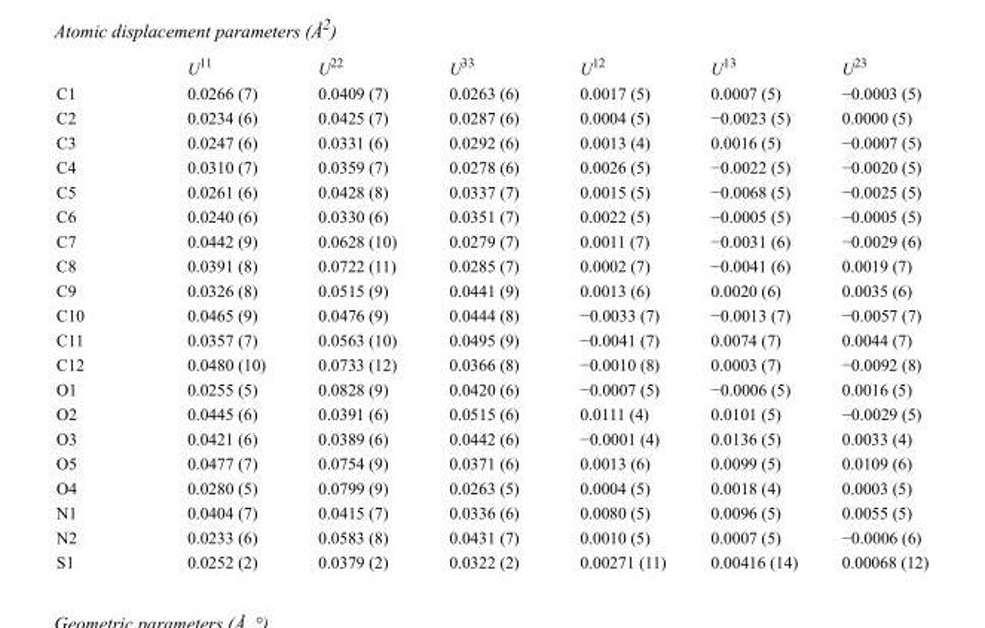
<table><thead><tr><td></td><td>U<sup>11</sup></td><td>U<sup>22</sup></td><td>U<sup>33</sup></td><td>U<sup>12</sup></td><td>U<sup>13</sup></td><td>U<sup>23</sup></td></tr></thead><tbody><tr><td>C1</td><td>0.0266 (7)</td><td>0.0409 (7)</td><td>0.0263 (6)</td><td>0.0017 (5)</td><td>0.0007 (5)</td><td>−0.0003 (5)</td></tr><tr><td>C2</td><td>0.0234 (6)</td><td>0.0425 (7)</td><td>0.0287 (6)</td><td>0.0004 (5)</td><td>−0.0023 (5)</td><td>0.0000 (5)</td></tr><tr><td>C3</td><td>0.0247 (6)</td><td>0.0331 (6)</td><td>0.0292 (6)</td><td>0.0013 (4)</td><td>0.0016 (5)</td><td>−0.0007 (5)</td></tr><tr><td>C4</td><td>0.0310 (7)</td><td>0.0359 (7)</td><td>0.0278 (6)</td><td>0.0026 (5)</td><td>−0.0022 (5)</td><td>−0.0020 (5)</td></tr><tr><td>C5</td><td>0.0261 (6)</td><td>0.0428 (8)</td><td>0.0337 (7)</td><td>0.0015 (5)</td><td>−0.0068 (5)</td><td>−0.0025 (5)</td></tr><tr><td>C6</td><td>0.0240 (6)</td><td>0.0330 (6)</td><td>0.0351 (7)</td><td>0.0022 (5)</td><td>−0.0005 (5)</td><td>−0.0005 (5)</td></tr><tr><td>C7</td><td>0.0442 (9)</td><td>0.0628 (10)</td><td>0.0279 (7)</td><td>0.0011 (7)</td><td>−0.0031 (6)</td><td>−0.0029 (6)</td></tr><tr><td>C8</td><td>0.0391 (8)</td><td>0.0722 (11)</td><td>0.0285 (7)</td><td>0.0002 (7)</td><td>−0.0041 (6)</td><td>0.0019 (7)</td></tr><tr><td>C9</td><td>0.0326 (8)</td><td>0.0515 (9)</td><td>0.0441 (9)</td><td>0.0013 (6)</td><td>0.0020 (6)</td><td>0.0035 (6)</td></tr><tr><td>C10</td><td>0.0465 (9)</td><td>0.0476 (9)</td><td>0.0444 (8)</td><td>−0.0033 (7)</td><td>−0.0013 (7)</td><td>−0.0057 (7)</td></tr><tr><td>C11</td><td>0.0357 (7)</td><td>0.0563 (10)</td><td>0.0495 (9)</td><td>−0.0041 (7)</td><td>0.0074 (7)</td><td>0.0044 (7)</td></tr><tr><td>C12</td><td>0.0480 (10)</td><td>0.0733 (12)</td><td>0.0366 (8)</td><td>−0.0010 (8)</td><td>0.0003 (7)</td><td>−0.0092 (8)</td></tr><tr><td>O1</td><td>0.0255 (5)</td><td>0.0828 (9)</td><td>0.0420 (6)</td><td>−0.0007 (5)</td><td>−0.0006 (5)</td><td>0.0016 (5)</td></tr><tr><td>O2</td><td>0.0445 (6)</td><td>0.0391 (6)</td><td>0.0515 (6)</td><td>0.0111 (4)</td><td>0.0101 (5)</td><td>−0.0029 (5)</td></tr><tr><td>O3</td><td>0.0421 (6)</td><td>0.0389 (6)</td><td>0.0442 (6)</td><td>−0.0001 (4)</td><td>0.0136 (5)</td><td>0.0033 (4)</td></tr><tr><td>O5</td><td>0.0477 (7)</td><td>0.0754 (9)</td><td>0.0371 (6)</td><td>0.0013 (6)</td><td>0.0099 (5)</td><td>0.0109 (6)</td></tr><tr><td>O4</td><td>0.0280 (5)</td><td>0.0799 (9)</td><td>0.0263 (5)</td><td>0.0004 (5)</td><td>0.0018 (4)</td><td>0.0003 (5)</td></tr><tr><td>N1</td><td>0.0404 (7)</td><td>0.0415 (7)</td><td>0.0336 (6)</td><td>0.0080 (5)</td><td>0.0096 (5)</td><td>0.0055 (5)</td></tr><tr><td>N2</td><td>0.0233 (6)</td><td>0.0583 (8)</td><td>0.0431 (7)</td><td>0.0010 (5)</td><td>0.0007 (5)</td><td>−0.0006 (6)</td></tr><tr><td>S1</td><td>0.0252 (2)</td><td>0.0379 (2)</td><td>0.0322 (2)</td><td>0.00271 (11)</td><td>0.00416 (14)</td><td>0.00068 (12)</td></tr></tbody></table>